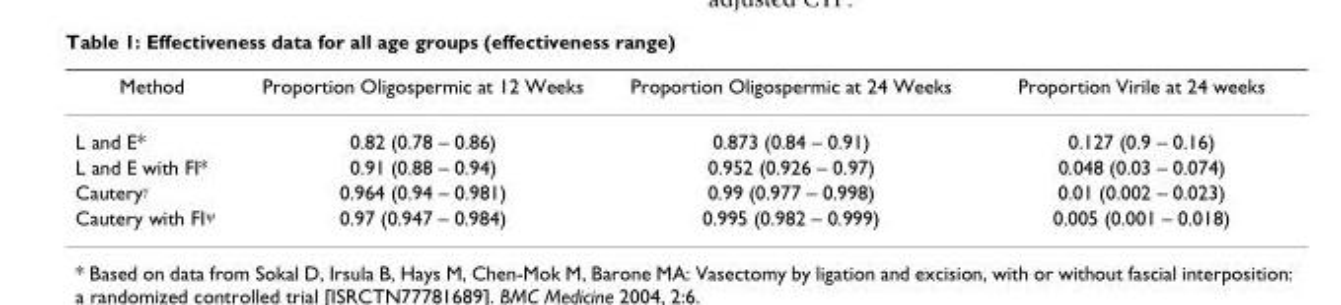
<table><thead><tr><td>Method</td><td>Proportion Oligospermic at 12 Weeks</td><td>Proportion Oligospermic at 24 Weeks</td><td>Proportion Virile at 24 weeks</td></tr></thead><tbody><tr><td>L and E*</td><td>0.82 (0.78 – 0.86)</td><td>0.873 (0.84 – 0.91)</td><td>0.127 (0.9 – 0.16)</td></tr><tr><td>L and E with FI*</td><td>0.91 (0.88 – 0.94)</td><td>0.952 (0.926 – 0.97)</td><td>0.048 (0.03 – 0.074)</td></tr><tr><td>Cautery<sup>γ</sup></td><td>0.964 (0.94 – 0.981)</td><td>0.99 (0.977 – 0.998)</td><td>0.01 (0.002 – 0.023)</td></tr><tr><td>Cautery with FI<sup>ψ</sup></td><td>0.97 (0.947 – 0.984)</td><td>0.995 (0.982 – 0.999)</td><td>0.005 (0.001 – 0.018)</td></tr></tbody></table>